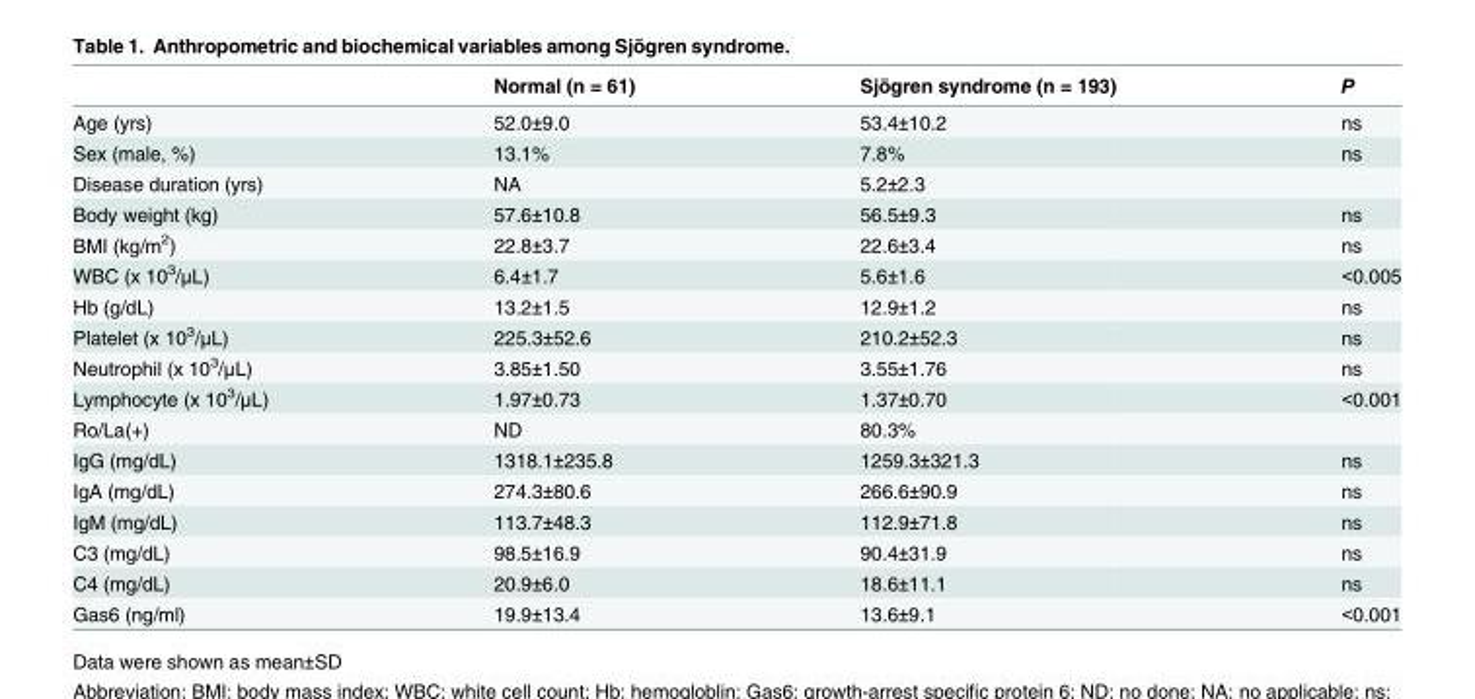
<table><thead><tr><td></td><td>Normal (n = 61)</td><td>Sjögren syndrome (n = 193)</td><td>P</td></tr></thead><tbody><tr><td>Age (yrs)</td><td>52.0±9.0</td><td>53.4±10.2</td><td>ns</td></tr><tr><td>Sex (male, %)</td><td>13.1%</td><td>7.8%</td><td>ns</td></tr><tr><td>Disease duration (yrs)</td><td>NA</td><td>5.2±2.3</td><td></td></tr><tr><td>Body weight (kg)</td><td>57.6±10.8</td><td>56.5±9.3</td><td>ns</td></tr><tr><td>BMI (kg/m<sup>2</sup>)</td><td>22.8±3.7</td><td>22.6±3.4</td><td>ns</td></tr><tr><td>WBC (x 10<sup>3</sup>/μL)</td><td>6.4±1.7</td><td>5.6±1.6</td><td>&lt;0.005</td></tr><tr><td>Hb (g/dL)</td><td>13.2±1.5</td><td>12.9±1.2</td><td>ns</td></tr><tr><td>Platelet (x 10<sup>3</sup>/μL)</td><td>225.3±52.6</td><td>210.2±52.3</td><td>ns</td></tr><tr><td>Neutrophil (x 10<sup>3</sup>/μL)</td><td>3.85±1.50</td><td>3.55±1.76</td><td>ns</td></tr><tr><td>Lymphocyte (x 10<sup>3</sup>/μL)</td><td>1.97±0.73</td><td>1.37±0.70</td><td>&lt;0.001</td></tr><tr><td>Ro/La(+)</td><td>ND</td><td>80.3%</td><td></td></tr><tr><td>IgG (mg/dL)</td><td>1318.1±235.8</td><td>1259.3±321.3</td><td>ns</td></tr><tr><td>IgA (mg/dL)</td><td>274.3±80.6</td><td>266.6±90.9</td><td>ns</td></tr><tr><td>IgM (mg/dL)</td><td>113.7±48.3</td><td>112.9±71.8</td><td>ns</td></tr><tr><td>C3 (mg/dL)</td><td>98.5±16.9</td><td>90.4±31.9</td><td>ns</td></tr><tr><td>C4 (mg/dL)</td><td>20.9±6.0</td><td>18.6±11.1</td><td>ns</td></tr><tr><td>Gas6 (ng/ml)</td><td>19.9±13.4</td><td>13.6±9.1</td><td>&lt;0.001</td></tr></tbody></table>